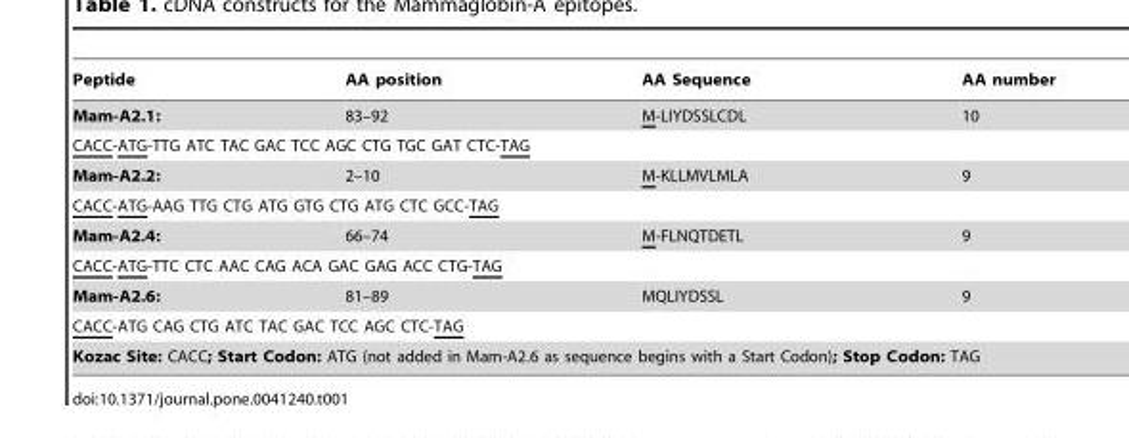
<table><thead><tr><td>Peptide</td><td>AA position</td><td>AA Sequence</td><td>AA number</td></tr></thead><tbody><tr><td>Mam-A2.1:</td><td>83–92</td><td>M-LIYDSSLCDL</td><td>10</td></tr><tr><td colspan="4">CACC-ATG-TTG ATC TAC GAC TCC AGC CTG TGC GAT CTC-TAG</td></tr><tr><td>Mam-A2.2:</td><td>2–10</td><td>M-KLLMVLMLA</td><td>9</td></tr><tr><td colspan="4">CACC-ATG-AAG TTG CTG ATG GTG CTG ATG CTC GCC-TAG</td></tr><tr><td>Mam-A2.4:</td><td>66–74</td><td>M-FLNQTDETL</td><td>9</td></tr><tr><td colspan="4">CACC-ATG-TTC CTC AAC CAG ACA GAC GAG ACC CTG-TAG</td></tr><tr><td>Mam-A2.6:</td><td>81–89</td><td>MQLIYDSSL</td><td>9</td></tr><tr><td colspan="4">CACC-ATG CAG CTG ATC TAC GAC TCC AGC CTC-TAG</td></tr><tr><td colspan="4">Kozac Site: CACC; Start Codon: ATG (not added in Mam-A2.6 as sequence begins with a Start Codon); Stop Codon: TAG</td></tr></tbody></table>